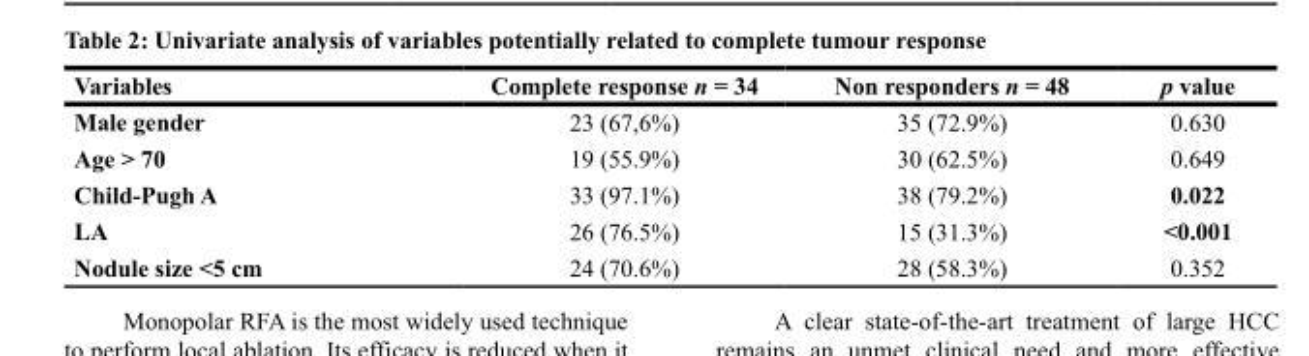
<table><thead><tr><td>Variables</td><td>Complete response n = 34</td><td>Non responders n = 48</td><td>p value</td></tr></thead><tbody><tr><td>Male gender</td><td>23 (67,6%)</td><td>35 (72.9%)</td><td>0.630</td></tr><tr><td>Age &gt; 70</td><td>19 (55.9%)</td><td>30 (62.5%)</td><td>0.649</td></tr><tr><td>Child-Pugh A</td><td>33 (97.1%)</td><td>38 (79.2%)</td><td>0.022</td></tr><tr><td>LA</td><td>26 (76.5%)</td><td>15 (31.3%)</td><td>&lt;0.001</td></tr><tr><td>Nodule size &lt;5 cm</td><td>24 (70.6%)</td><td>28 (58.3%)</td><td>0.352</td></tr></tbody></table>